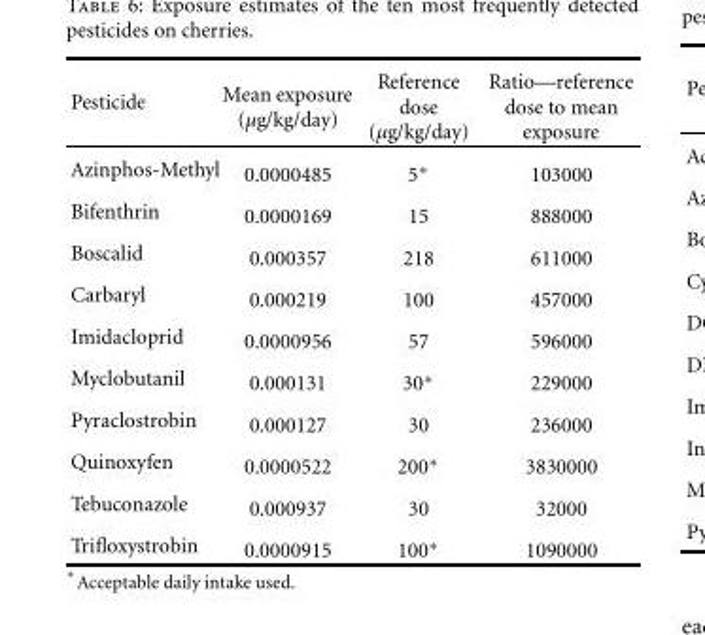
<table><thead><tr><td>Pesticide</td><td>Mean exposure (µg/kg/day)</td><td>Reference dose (µg/kg/day)</td><td>Ratio—reference dose to mean exposure</td></tr></thead><tbody><tr><td>Azinphos-Methyl</td><td>0.0000485</td><td>5∗</td><td>103000</td></tr><tr><td>Bifenthrin</td><td>0.0000169</td><td>15</td><td>888000</td></tr><tr><td>Boscalid</td><td>0.000357</td><td>218</td><td>611000</td></tr><tr><td>Carbaryl</td><td>0.000219</td><td>100</td><td>457000</td></tr><tr><td>Imidacloprid</td><td>0.0000956</td><td>57</td><td>596000</td></tr><tr><td>Myclobutanil</td><td>0.000131</td><td>30∗</td><td>229000</td></tr><tr><td>Pyraclostrobin</td><td>0.000127</td><td>30</td><td>236000</td></tr><tr><td>Quinoxyfen</td><td>0.0000522</td><td>200∗</td><td>3830000</td></tr><tr><td>Tebuconazole</td><td>0.000937</td><td>30</td><td>32000</td></tr><tr><td>Trifloxystrobin</td><td>0.0000915</td><td>100∗</td><td>1090000</td></tr></tbody></table>